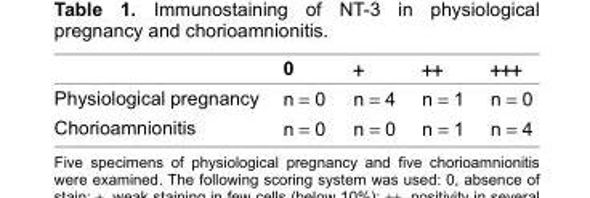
<table><thead><tr><td></td><td>0</td><td>+</td><td>++</td><td>+++</td></tr></thead><tbody><tr><td>Physiological pregnancy</td><td>n = 0</td><td>n = 4</td><td>n = 1</td><td>n = 0</td></tr><tr><td>Chorioamnionitis</td><td>n = 0</td><td>n = 0</td><td>n = 1</td><td>n = 4</td></tr></tbody></table>